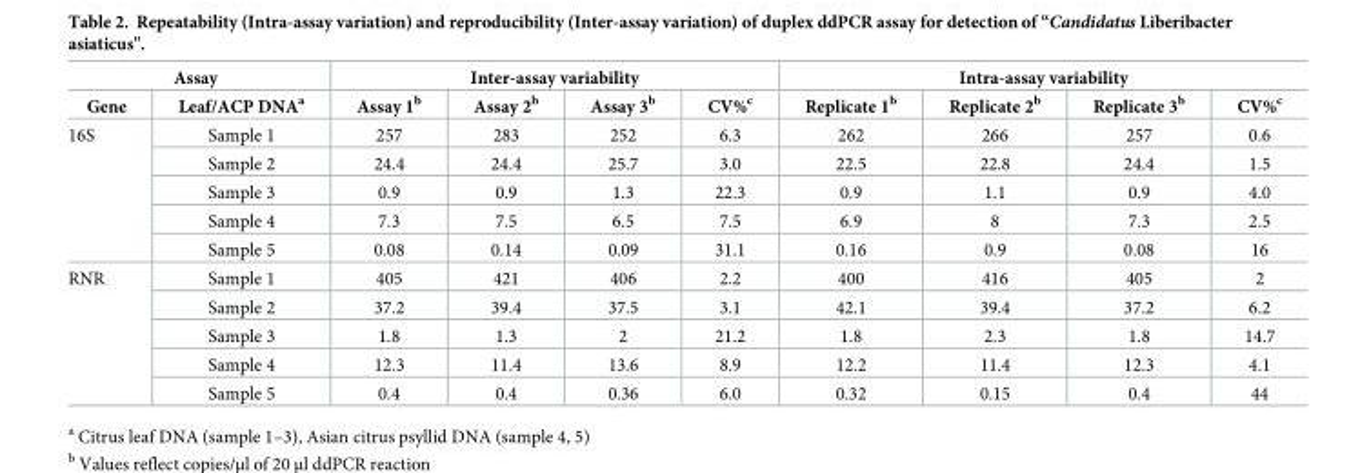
<table><thead><tr><td colspan="2">Assay</td><td colspan="4">Inter-assay variability</td><td colspan="4">Intra-assay variability</td></tr><tr><td>Gene</td><td>Leaf/ACP DNA<sup>a</sup></td><td>Assay 1<sup>b</sup></td><td>Assay 2<sup>b</sup></td><td>Assay 3<sup>b</sup></td><td>CV%<sup>c</sup></td><td>Replicate 1<sup>b</sup></td><td>Replicate 2<sup>b</sup></td><td>Replicate 3<sup>b</sup></td><td>CV%<sup>c</sup></td></tr></thead><tbody><tr><td rowspan="5">16S</td><td>Sample 1</td><td>257</td><td>283</td><td>252</td><td>6.3</td><td>262</td><td>266</td><td>257</td><td>0.6</td></tr><tr><td>Sample 2</td><td>24.4</td><td>24.4</td><td>25.7</td><td>3.0</td><td>22.5</td><td>22.8</td><td>24.4</td><td>1.5</td></tr><tr><td>Sample 3</td><td>0.9</td><td>0.9</td><td>1.3</td><td>22.3</td><td>0.9</td><td>1.1</td><td>0.9</td><td>4.0</td></tr><tr><td>Sample 4</td><td>7.3</td><td>7.5</td><td>6.5</td><td>7.5</td><td>6.9</td><td>8</td><td>7.3</td><td>2.5</td></tr><tr><td>Sample 5</td><td>0.08</td><td>0.14</td><td>0.09</td><td>31.1</td><td>0.16</td><td>0.9</td><td>0.08</td><td>16</td></tr><tr><td rowspan="5">RNR</td><td>Sample 1</td><td>405</td><td>421</td><td>406</td><td>2.2</td><td>400</td><td>416</td><td>405</td><td>2</td></tr><tr><td>Sample 2</td><td>37.2</td><td>39.4</td><td>37.5</td><td>3.1</td><td>42.1</td><td>39.4</td><td>37.2</td><td>6.2</td></tr><tr><td>Sample 3</td><td>1.8</td><td>1.3</td><td>2</td><td>21.2</td><td>1.8</td><td>2.3</td><td>1.8</td><td>14.7</td></tr><tr><td>Sample 4</td><td>12.3</td><td>11.4</td><td>13.6</td><td>8.9</td><td>12.2</td><td>11.4</td><td>12.3</td><td>4.1</td></tr><tr><td>Sample 5</td><td>0.4</td><td>0.4</td><td>0.36</td><td>6.0</td><td>0.32</td><td>0.15</td><td>0.4</td><td>44</td></tr></tbody></table>